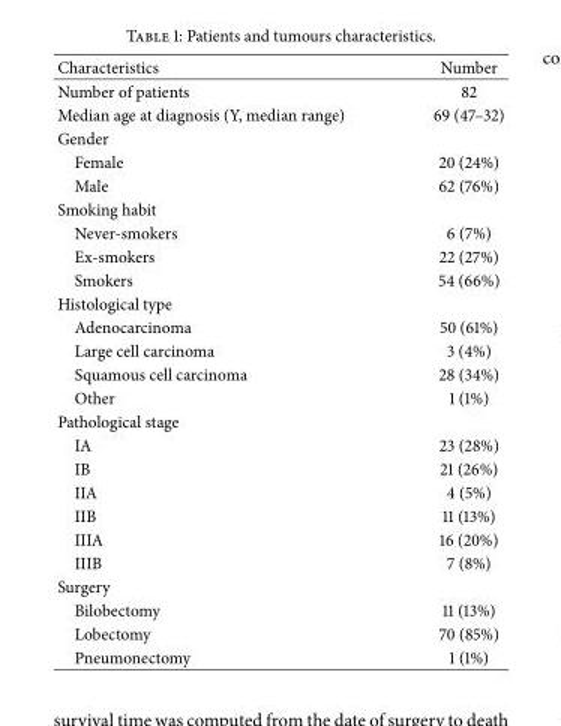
<table><thead><tr><td>Characteristics</td><td>Number</td></tr></thead><tbody><tr><td>Number of patients</td><td>82</td></tr><tr><td>Median age at diagnosis (Y, median range)</td><td>69 (47–32)</td></tr><tr><td colspan="2">Gender</td></tr><tr><td>Female</td><td>20 (24%)</td></tr><tr><td>Male</td><td>62 (76%)</td></tr><tr><td colspan="2">Smoking habit</td></tr><tr><td>Never-smokers</td><td>6 (7%)</td></tr><tr><td>Ex-smokers</td><td>22 (27%)</td></tr><tr><td>Smokers</td><td>54 (66%)</td></tr><tr><td colspan="2">Histological type</td></tr><tr><td>Adenocarcinoma</td><td>50 (61%)</td></tr><tr><td>Large cell carcinoma</td><td>3 (4%)</td></tr><tr><td>Squamous cell carcinoma</td><td>28 (34%)</td></tr><tr><td>Other</td><td>1 (1%)</td></tr><tr><td colspan="2">Pathological stage</td></tr><tr><td>IA</td><td>23 (28%)</td></tr><tr><td>IB</td><td>21 (26%)</td></tr><tr><td>IIA</td><td>4 (5%)</td></tr><tr><td>IIB</td><td>11 (13%)</td></tr><tr><td>IIIA</td><td>16 (20%)</td></tr><tr><td>IIIB</td><td>7 (8%)</td></tr><tr><td colspan="2">Surgery</td></tr><tr><td>Bilobectomy</td><td>11 (13%)</td></tr><tr><td>Lobectomy</td><td>70 (85%)</td></tr><tr><td>Pneumonectomy</td><td>1 (1%)</td></tr></tbody></table>